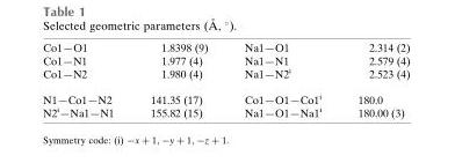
<table><tbody><tr><td>Co1—O1</td><td>1.8398 (9)</td><td>Na1—O1</td><td>2.314 (2)</td></tr><tr><td>Co1—N1</td><td>1.977 (4)</td><td>Na1—N1</td><td>2.579 (4)</td></tr><tr><td>Co1—N2</td><td>1.980 (4)</td><td>Na1—N2<sup>i</sup></td><td>2.523 (4)</td></tr><tr><td>N1—Co1—N2</td><td>141.35 (17)</td><td>Co1—O1—Co1<sup>i</sup></td><td>180.0</td></tr><tr><td>N2<sup>i</sup>—Na1—N1</td><td>155.82 (15)</td><td>Na1—O1—Na1<sup>i</sup></td><td>180.00 (3)</td></tr></tbody></table>